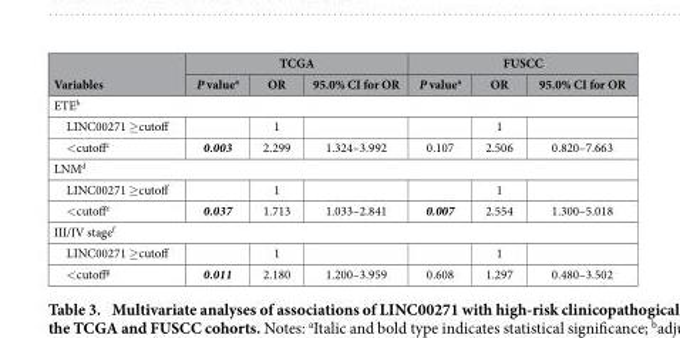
<table><thead><tr><td rowspan="2">Variables</td><td colspan="3">TCGA</td><td colspan="3">FUSCC</td></tr><tr><td>P value<sup>a</sup></td><td>OR</td><td>95.0% CI for OR</td><td>P value<sup>a</sup></td><td>OR</td><td>95.0% CI for OR</td></tr></thead><tbody><tr><td colspan="7">ETE<sup>b</sup></td></tr><tr><td>LINC00271 ≥ cutoff</td><td></td><td>1</td><td></td><td></td><td>1</td><td></td></tr><tr><td>&lt; cutoff<sup>c</sup></td><td>0.003</td><td>2.299</td><td>1.324–3.992</td><td>0.107</td><td>2.506</td><td>0.820–7.663</td></tr><tr><td colspan="7">LNM<sup>d</sup></td></tr><tr><td>LINC00271 ≥ cutoff</td><td></td><td>1</td><td></td><td></td><td>1</td><td></td></tr><tr><td>&lt; cutoff<sup>e</sup></td><td>0.037</td><td>1.713</td><td>1.033–2.841</td><td>0.007</td><td>2.554</td><td>1.300–5.018</td></tr><tr><td colspan="7">III/IV stage<sup>f</sup></td></tr><tr><td>LINC00271 ≥ cutoff</td><td></td><td>1</td><td></td><td></td><td>1</td><td></td></tr><tr><td>&lt; cutoff<sup>g</sup></td><td>0.011</td><td>2.180</td><td>1.200–3.959</td><td>0.608</td><td>1.297</td><td>0.480–3.502</td></tr></tbody></table>